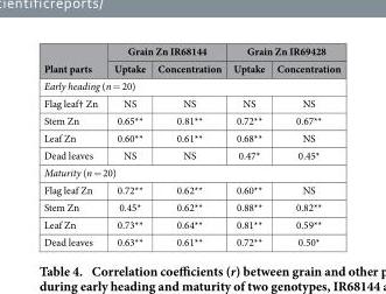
<table><thead><tr><td rowspan="2">Plant parts</td><td colspan="2">Grain Zn IR68144</td><td colspan="2">Grain Zn IR69428</td></tr><tr><td>Uptake</td><td>Concentration</td><td>Uptake</td><td>Concentration</td></tr></thead><tbody><tr><td colspan="5">Early heading (n = 20)</td></tr><tr><td>Flag leaf† Zn</td><td>NS</td><td>NS</td><td>NS</td><td>NS</td></tr><tr><td>Stem Zn</td><td>0.65**</td><td>0.81**</td><td>0.72**</td><td>0.67**</td></tr><tr><td>Leaf Zn</td><td>0.60**</td><td>0.61**</td><td>0.68**</td><td>NS</td></tr><tr><td>Dead leaves</td><td>NS</td><td>NS</td><td>0.47*</td><td>0.45*</td></tr><tr><td colspan="5">Maturity (n = 20)</td></tr><tr><td>Flag leaf Zn</td><td>0.72**</td><td>0.62**</td><td>0.60**</td><td>NS</td></tr><tr><td>Stem Zn</td><td>0.45*</td><td>0.62**</td><td>0.88**</td><td>0.82**</td></tr><tr><td>Leaf Zn</td><td>0.73**</td><td>0.64**</td><td>0.81**</td><td>0.59**</td></tr><tr><td>Dead leaves</td><td>0.63**</td><td>0.61**</td><td>0.72**</td><td>0.50*</td></tr></tbody></table>